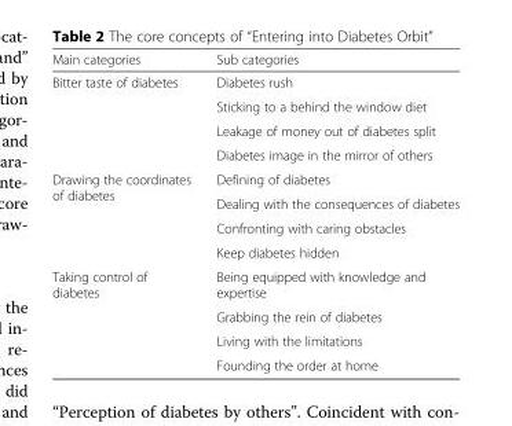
<table><thead><tr><td>Main categories</td><td>Sub categories</td></tr></thead><tbody><tr><td rowspan="4">Bitter taste of diabetes</td><td>Diabetes rush</td></tr><tr><td>Sticking to a behind the window diet</td></tr><tr><td>Leakage of money out of diabetes split</td></tr><tr><td>Diabetes image in the mirror of others</td></tr><tr><td rowspan="4">Drawing the coordinates of diabetes</td><td>Defining of diabetes</td></tr><tr><td>Dealing with the consequences of diabetes</td></tr><tr><td>Confronting with caring obstacles</td></tr><tr><td>Keep diabetes hidden</td></tr><tr><td rowspan="4">Taking control of diabetes</td><td>Being equipped with knowledge and expertise</td></tr><tr><td>Grabbing the rein of diabetes</td></tr><tr><td>Living with the limitations</td></tr><tr><td>Founding the order at home</td></tr></tbody></table>